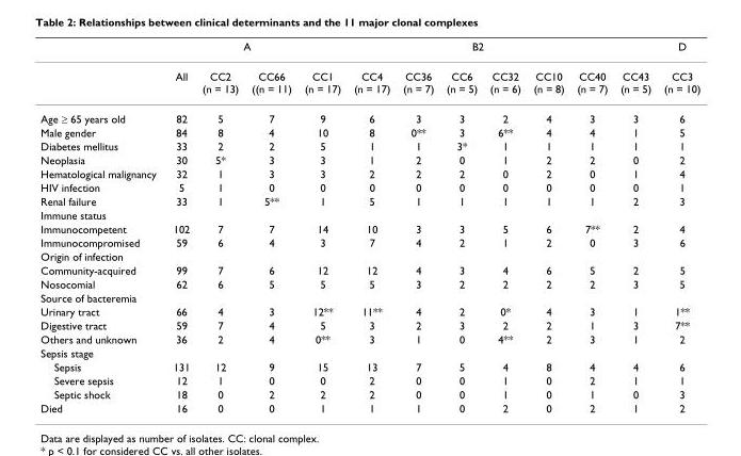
<table><thead><tr><td rowspan="2"></td><td rowspan="2">All</td><td colspan="2">A</td><td colspan="8">B2</td><td rowspan="2">D CC3 (n = 10)</td></tr><tr><td>CC2 (n = 13)</td><td>CC66 ((n = 11)</td><td>CC1 (n = 17)</td><td>CC4 (n = 17)</td><td>CC36 (n = 7)</td><td>CC6 (n = 5)</td><td>CC32 (n = 6)</td><td>CC10 (n = 8)</td><td>CC40 (n = 7)</td><td>CC43 (n = 5)</td></tr></thead><tbody><tr><td>Age ≥ 65 years old</td><td>82</td><td>5</td><td>7</td><td>9</td><td>6</td><td>3</td><td>3</td><td>2</td><td>4</td><td>3</td><td>3</td><td>6</td></tr><tr><td>Male gender</td><td>84</td><td>8</td><td>4</td><td>10</td><td>8</td><td>0**</td><td>3</td><td>6**</td><td>4</td><td>4</td><td>1</td><td>5</td></tr><tr><td>Diabetes mellitus</td><td>33</td><td>2</td><td>2</td><td>5</td><td>1</td><td>1</td><td>3*</td><td>1</td><td>1</td><td>1</td><td>1</td><td>1</td></tr><tr><td>Neoplasia</td><td>30</td><td>5*</td><td>3</td><td>3</td><td>1</td><td>2</td><td>0</td><td>1</td><td>2</td><td>2</td><td>0</td><td>2</td></tr><tr><td>Hematological malignancy</td><td>32</td><td>1</td><td>3</td><td>3</td><td>2</td><td>2</td><td>2</td><td>0</td><td>2</td><td>0</td><td>1</td><td>4</td></tr><tr><td>HIV infection</td><td>5</td><td>1</td><td>0</td><td>0</td><td>0</td><td>0</td><td>0</td><td>0</td><td>0</td><td>0</td><td>0</td><td>1</td></tr><tr><td>Renal failure</td><td>33</td><td>1</td><td>5**</td><td>1</td><td>5</td><td>1</td><td>1</td><td>1</td><td>1</td><td>1</td><td>2</td><td>3</td></tr><tr><td colspan="13">Immune status</td></tr><tr><td>Immunocompetent</td><td>102</td><td>7</td><td>7</td><td>14</td><td>10</td><td>3</td><td>3</td><td>5</td><td>6</td><td>7**</td><td>2</td><td>4</td></tr><tr><td>Immunocompromised</td><td>59</td><td>6</td><td>4</td><td>3</td><td>7</td><td>4</td><td>2</td><td>1</td><td>2</td><td>0</td><td>3</td><td>6</td></tr><tr><td colspan="13">Origin of infection</td></tr><tr><td>Community-acquired</td><td>99</td><td>7</td><td>6</td><td>12</td><td>12</td><td>4</td><td>3</td><td>4</td><td>6</td><td>5</td><td>2</td><td>5</td></tr><tr><td>Nosocomial</td><td>62</td><td>6</td><td>5</td><td>5</td><td>5</td><td>3</td><td>2</td><td>2</td><td>2</td><td>2</td><td>3</td><td>5</td></tr><tr><td colspan="13">Source of bacteremia</td></tr><tr><td>Urinary tract</td><td>66</td><td>4</td><td>3</td><td>12**</td><td>11**</td><td>4</td><td>2</td><td>0*</td><td>4</td><td>3</td><td>1</td><td>1**</td></tr><tr><td>Digestive tract</td><td>59</td><td>7</td><td>4</td><td>5</td><td>3</td><td>2</td><td>3</td><td>2</td><td>2</td><td>1</td><td>3</td><td>7**</td></tr><tr><td>Others and unknown</td><td>36</td><td>2</td><td>4</td><td>0**</td><td>3</td><td>1</td><td>0</td><td>4**</td><td>2</td><td>3</td><td>1</td><td>2</td></tr><tr><td colspan="13">Sepsis stage</td></tr><tr><td>Sepsis</td><td>131</td><td>12</td><td>9</td><td>15</td><td>13</td><td>7</td><td>5</td><td>4</td><td>8</td><td>4</td><td>4</td><td>6</td></tr><tr><td>Severe sepsis</td><td>12</td><td>1</td><td>0</td><td>0</td><td>2</td><td>0</td><td>0</td><td>1</td><td>0</td><td>2</td><td>1</td><td>1</td></tr><tr><td>Septic shock</td><td>18</td><td>0</td><td>2</td><td>2</td><td>2</td><td>0</td><td>0</td><td>1</td><td>0</td><td>1</td><td>0</td><td>3</td></tr><tr><td>Died</td><td>16</td><td>0</td><td>0</td><td>1</td><td>1</td><td>1</td><td>0</td><td>2</td><td>0</td><td>2</td><td>1</td><td>2</td></tr></tbody></table>